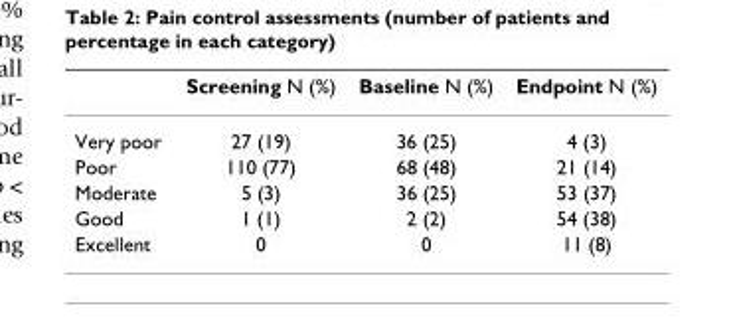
<table><thead><tr><td></td><td>Screening N (%)</td><td>Baseline N (%)</td><td>Endpoint N (%)</td></tr></thead><tbody><tr><td>Very poor</td><td>27 (19)</td><td>36 (25)</td><td>4 (3)</td></tr><tr><td>Poor</td><td>110 (77)</td><td>68 (48)</td><td>21 (14)</td></tr><tr><td>Moderate</td><td>5 (3)</td><td>36 (25)</td><td>53 (37)</td></tr><tr><td>Good</td><td>1 (1)</td><td>2 (2)</td><td>54 (38)</td></tr><tr><td>Excellent</td><td>0</td><td>0</td><td>11 (8)</td></tr></tbody></table>